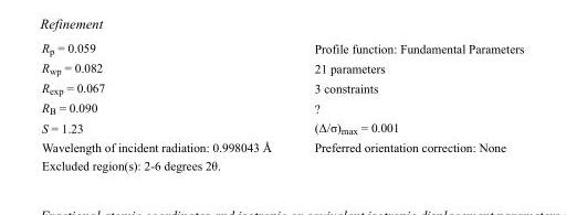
<table><tbody><tr><td>R<sub>p</sub> = 0.059</td><td>Profile function: Fundamental Parameters</td></tr><tr><td>R<sub>wp</sub> = 0.082</td><td>21 parameters</td></tr><tr><td>R<sub>exp</sub> = 0.067</td><td>3 constraints</td></tr><tr><td>R<sub>B</sub> = 0.090</td><td>?</td></tr><tr><td>S = 1.23</td><td>(Δ/σ)<sub>max</sub> = 0.001</td></tr><tr><td>Wavelength of incident radiation: 0.998043 Å</td><td>Preferred orientation correction: None</td></tr><tr><td>Excluded region(s): 2-6 degrees 2θ.</td><td></td></tr></tbody></table>